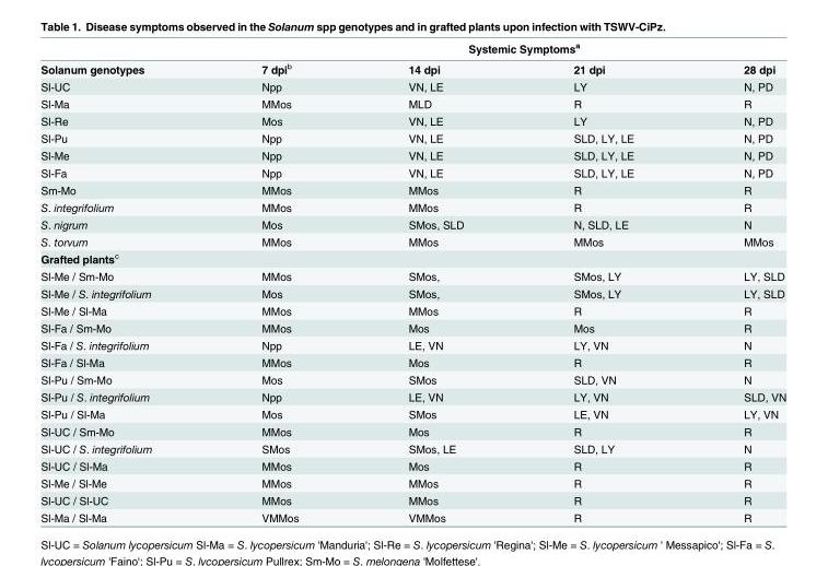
<table><thead><tr><td rowspan="2">Solanum genotypes</td><td colspan="4">Systemic Symptoms<sup>a</sup></td></tr><tr><td>7 dpi<sup>b</sup></td><td>14 dpi</td><td>21 dpi</td><td>28 dpi</td></tr></thead><tbody><tr><td>Sl-UC</td><td>Npp</td><td>VN, LE</td><td>LY</td><td>N, PD</td></tr><tr><td>Sl-Ma</td><td>MMos</td><td>MLD</td><td>R</td><td>R</td></tr><tr><td>Sl-Re</td><td>Mos</td><td>VN, LE</td><td>LY</td><td>N, PD</td></tr><tr><td>Sl-Pu</td><td>Npp</td><td>VN, LE</td><td>SLD, LY, LE</td><td>N, PD</td></tr><tr><td>Sl-Me</td><td>Npp</td><td>VN, LE</td><td>SLD, LY, LE</td><td>N, PD</td></tr><tr><td>Sl-Fa</td><td>Npp</td><td>VN, LE</td><td>SLD, LY, LE</td><td>N, PD</td></tr><tr><td>Sm-Mo</td><td>MMos</td><td>MMos</td><td>R</td><td>R</td></tr><tr><td>S. integrifolium</td><td>MMos</td><td>MMos</td><td>R</td><td>R</td></tr><tr><td>S. nigrum</td><td>Mos</td><td>SMos, SLD</td><td>N, SLD, LE</td><td>N</td></tr><tr><td>S. torvum</td><td>MMos</td><td>MMos</td><td>MMos</td><td>MMos</td></tr><tr><td colspan="5">Grafted plants<sup>c</sup></td></tr><tr><td>Sl-Me / Sm-Mo</td><td>MMos</td><td>SMos,</td><td>SMos, LY</td><td>LY, SLD</td></tr><tr><td>Sl-Me / S. integrifolium</td><td>Mos</td><td>SMos,</td><td>SMos, LY</td><td>LY, SLD</td></tr><tr><td>Sl-Me / Sl-Ma</td><td>MMos</td><td>MMos</td><td>R</td><td>R</td></tr><tr><td>Sl-Fa / Sm-Mo</td><td>MMos</td><td>Mos</td><td>Mos</td><td>R</td></tr><tr><td>Sl-Fa / S. integrifolium</td><td>Npp</td><td>LE, VN</td><td>LY, VN</td><td>N</td></tr><tr><td>Sl-Fa / Sl-Ma</td><td>MMos</td><td>Mos</td><td>R</td><td>R</td></tr><tr><td>Sl-Pu / Sm-Mo</td><td>Mos</td><td>SMos</td><td>SLD, VN</td><td>N</td></tr><tr><td>Sl-Pu / S. integrifolium</td><td>Npp</td><td>LE, VN</td><td>LY, VN</td><td>SLD, VN</td></tr><tr><td>Sl-Pu / Sl-Ma</td><td>Mos</td><td>SMos</td><td>LE, VN</td><td>LY, VN</td></tr><tr><td>Sl-UC / Sm-Mo</td><td>MMos</td><td>Mos</td><td>R</td><td>R</td></tr><tr><td>Sl-UC / S. integrifolium</td><td>SMos</td><td>SMos, LE</td><td>SLD, LY</td><td>N</td></tr><tr><td>Sl-UC / Sl-Ma</td><td>MMos</td><td>Mos</td><td>R</td><td>R</td></tr><tr><td>Sl-Me / Sl-Me</td><td>MMos</td><td>MMos</td><td>R</td><td>R</td></tr><tr><td>Sl-UC / Sl-UC</td><td>MMos</td><td>MMos</td><td>R</td><td>R</td></tr><tr><td>Sl-Ma / Sl-Ma</td><td>VMMos</td><td>VMMos</td><td>R</td><td>R</td></tr></tbody></table>